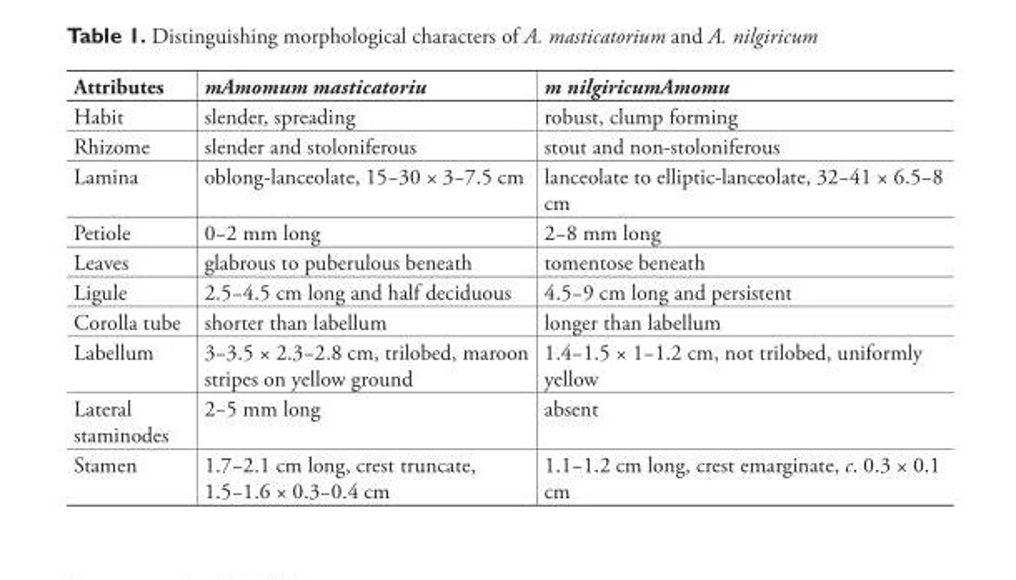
<table><thead><tr><td>Attributes</td><td>mAmomum masticatoriu</td><td>m nilgiricumAmomu</td></tr></thead><tbody><tr><td>Habit</td><td>slender, spreading</td><td>robust, clump forming</td></tr><tr><td>Rhizome</td><td>slender and stoloniferous</td><td>stout and non-stoloniferous</td></tr><tr><td>Lamina</td><td>oblong-lanceolate, 15−30 × 3−7.5 cm</td><td>lanceolate to elliptic-lanceolate, 32−41 × 6.5−8 cm</td></tr><tr><td>Petiole</td><td>0−2 mm long</td><td>2−8 mm long</td></tr><tr><td>Leaves</td><td>glabrous to puberulous beneath</td><td>tomentose beneath</td></tr><tr><td>Ligule</td><td>2.5−4.5 cm long and half deciduous</td><td>4.5−9 cm long and persistent</td></tr><tr><td>Corolla tube</td><td>shorter than labellum</td><td>longer than labellum</td></tr><tr><td>Labellum</td><td>3−3.5 × 2.3−2.8 cm, trilobed, maroon stripes on yellow ground</td><td>1.4−1.5 × 1−1.2 cm, not trilobed, uniformly yellow</td></tr><tr><td>Lateral staminodes</td><td>2−5 mm long</td><td>absent</td></tr><tr><td>Stamen</td><td>1.7−2.1 cm long, crest truncate, 1.5−1.6 × 0.3−0.4 cm</td><td>1.1−1.2 cm long, crest emarginate, c. 0.3 × 0.1 cm</td></tr></tbody></table>